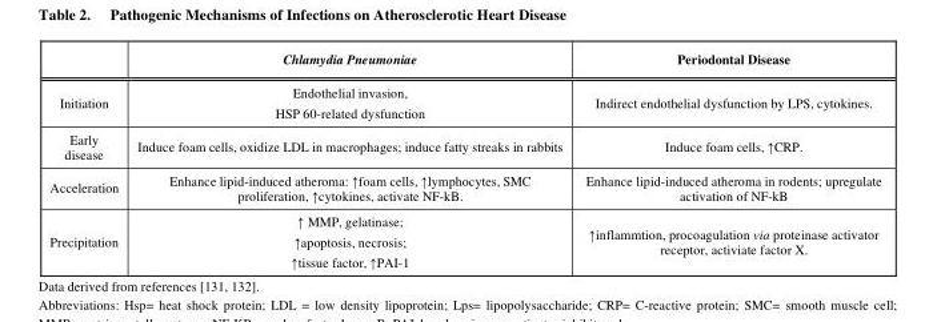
<table><thead><tr><td></td><td>Chlamydia Pneumoniae</td><td>Periodontal Disease</td></tr></thead><tbody><tr><td>Initiation</td><td>Endothelial invasion, HSP 60-related dysfunction</td><td>Indirect endothelial dysfunction by LPS, cytokines.</td></tr><tr><td>Early disease</td><td>Induce foam cells, oxidize LDL in macrophages; induce fatty streaks in rabbits</td><td>Induce foam cells, ↑CRP.</td></tr><tr><td>Acceleration</td><td>Enhance lipid-induced atheroma: ↑foam cells, ↑lymphocytes, SMC proliferation, ↑cytokines, activate NF-kB.</td><td>Enhance lipid-induced atheroma in rodents; upregulate activation of NF-kB</td></tr><tr><td>Precipitation</td><td>↑ MMP, gelatinase; ↑apoptosis, necrosis; ↑tissue factor, ↑PAI-1</td><td>↑inflammtion, procoagulation via proteinase activator receptor, activiate factor X.</td></tr></tbody></table>